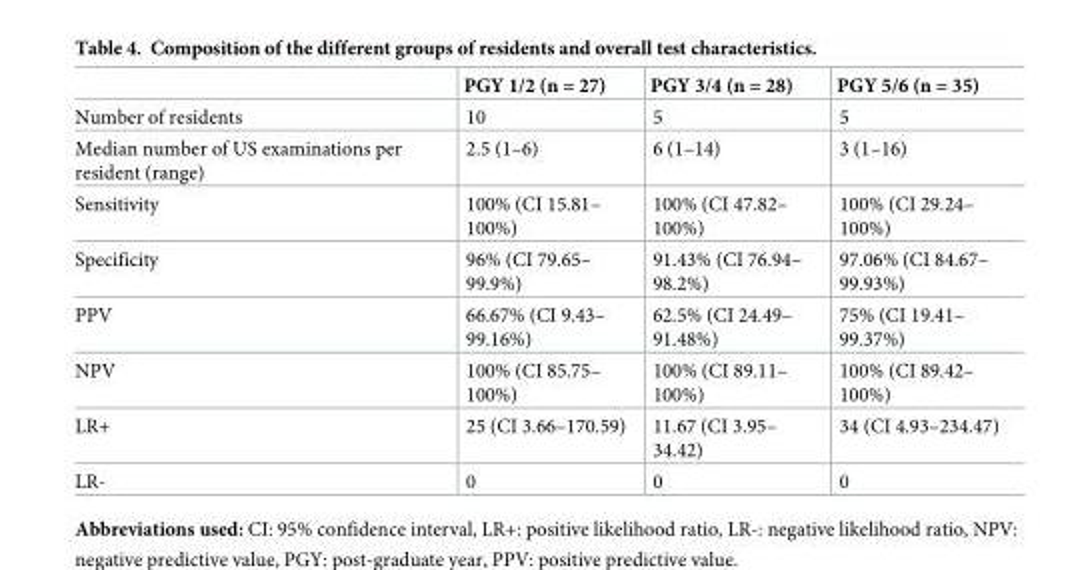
<table><thead><tr><td></td><td>PGY 1/2 (n = 27)</td><td>PGY 3/4 (n = 28)</td><td>PGY 5/6 (n = 35)</td></tr></thead><tbody><tr><td>Number of residents</td><td>10</td><td>5</td><td>5</td></tr><tr><td>Median number of US examinations per resident (range)</td><td>2.5 (1–6)</td><td>6 (1–14)</td><td>3 (1–16)</td></tr><tr><td>Sensitivity</td><td>100% (CI 15.81– 100%)</td><td>100% (CI 47.82– 100%)</td><td>100% (CI 29.24– 100%)</td></tr><tr><td>Specificity</td><td>96% (CI 79.65– 99.9%)</td><td>91.43% (CI 76.94– 98.2%)</td><td>97.06% (CI 84.67– 99.93%)</td></tr><tr><td>PPV</td><td>66.67% (CI 9.43– 99.16%)</td><td>62.5% (CI 24.49– 91.48%)</td><td>75% (CI 19.41– 99.37%)</td></tr><tr><td>NPV</td><td>100% (CI 85.75– 100%)</td><td>100% (CI 89.11– 100%)</td><td>100% (CI 89.42– 100%)</td></tr><tr><td>LR+</td><td>25 (CI 3.66–170.59)</td><td>11.67 (CI 3.95– 34.42)</td><td>34 (CI 4.93–234.47)</td></tr><tr><td>LR-</td><td>0</td><td>0</td><td>0</td></tr></tbody></table>